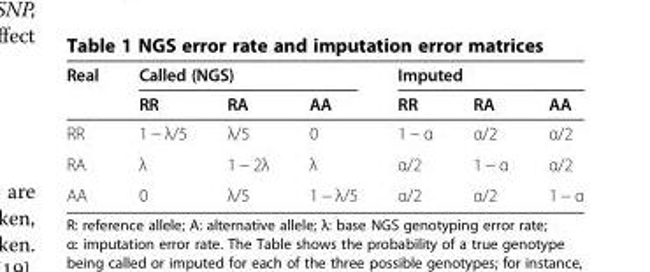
<table><thead><tr><td rowspan="2">Real</td><td colspan="3">Called (NGS)</td><td colspan="3">Imputed</td></tr><tr><td>RR</td><td>RA</td><td>AA</td><td>RR</td><td>RA</td><td>AA</td></tr></thead><tbody><tr><td>RR</td><td>1 − λ/5</td><td>λ/5</td><td>0</td><td>1 − α</td><td>α/2</td><td>α/2</td></tr><tr><td>RA</td><td>λ</td><td>1 − 2λ</td><td>λ</td><td>α/2</td><td>1 − α</td><td>α/2</td></tr><tr><td>AA</td><td>0</td><td>λ/5</td><td>1 − λ/5</td><td>α/2</td><td>α/2</td><td>1 − α</td></tr></tbody></table>